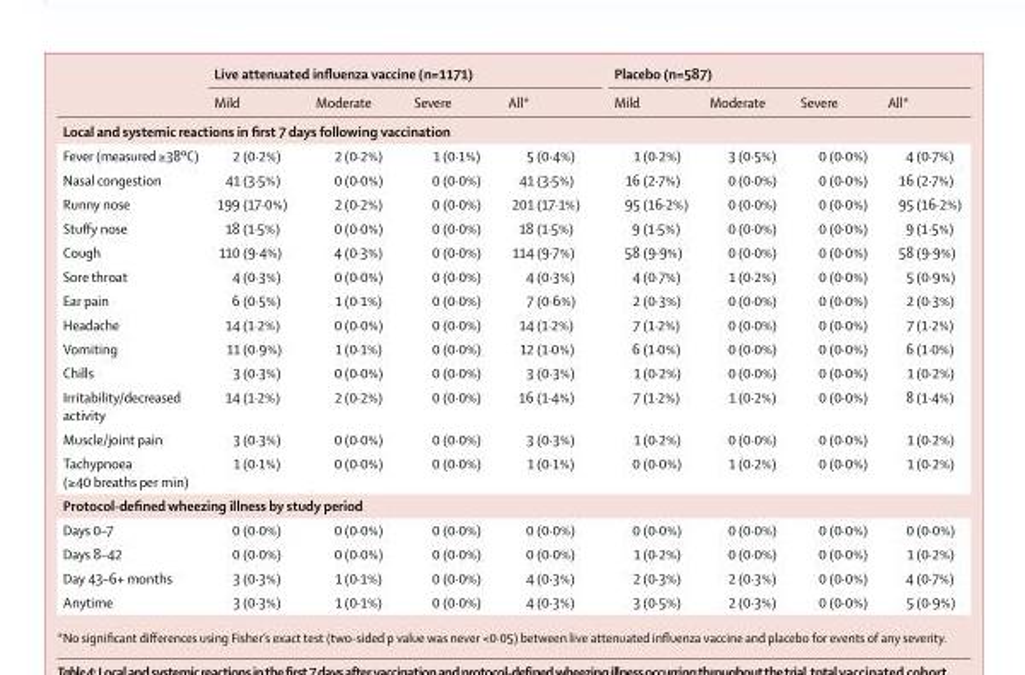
<table><thead><tr><td rowspan="2"></td><td colspan="4">Live attenuated infl uenza vaccine (n=1171)</td><td colspan="4">Placebo (n=587)</td></tr><tr><td>Mild</td><td>Moderate</td><td>Severe</td><td>All*</td><td>Mild</td><td>Moderate</td><td>Severe</td><td>All*</td></tr></thead><tbody><tr><td colspan="9">Local and systemic reactions in fi rst 7 days following vaccination</td></tr><tr><td>Fever (measured ≥38ºC)</td><td>2 (0·2%)</td><td>2 (0·2%)</td><td>1 (0·1%)</td><td>5 (0·4%)</td><td>1 (0·2%)</td><td>3 (0·5%)</td><td>0 (0·0%)</td><td>4 (0·7%)</td></tr><tr><td>Nasal congestion</td><td>41 (3·5%)</td><td>0 (0·0%)</td><td>0 (0·0%)</td><td>41 (3·5%)</td><td>16 (2·7%)</td><td>0 (0·0%)</td><td>0 (0·0%)</td><td>16 (2·7%)</td></tr><tr><td>Runny nose</td><td>199 (17·0%)</td><td>2 (0·2%)</td><td>0 (0·0%)</td><td>201 (17·1%)</td><td>95 (16·2%)</td><td>0 (0·0%)</td><td>0 (0·0%)</td><td>95 (16·2%)</td></tr><tr><td>Stuff y nose</td><td>18 (1·5%)</td><td>0 (0·0%)</td><td>0 (0·0%)</td><td>18 (1·5%)</td><td>9 (1·5%)</td><td>0 (0·0%)</td><td>0 (0·0%)</td><td>9 (1·5%)</td></tr><tr><td>Cough</td><td>110 (9·4%)</td><td>4 (0·3%)</td><td>0 (0·0%)</td><td>114 (9·7%)</td><td>58 (9·9%)</td><td>0 (0·0%)</td><td>0 (0·0%)</td><td>58 (9·9%)</td></tr><tr><td>Sore throat</td><td>4 (0·3%)</td><td>0 (0·0%)</td><td>0 (0·0%)</td><td>4 (0·3%)</td><td>4 (0·7%)</td><td>1 (0·2%)</td><td>0 (0·0%)</td><td>5 (0·9%)</td></tr><tr><td>Ear pain</td><td>6 (0·5%)</td><td>1 (0·1%)</td><td>0 (0·0%)</td><td>7 (0·6%)</td><td>2 (0·3%)</td><td>0 (0·0%)</td><td>0 (0·0%)</td><td>2 (0·3%)</td></tr><tr><td>Headache</td><td>14 (1·2%)</td><td>0 (0·0%)</td><td>0 (0·0%)</td><td>14 (1·2%)</td><td>7 (1·2%)</td><td>0 (0·0%)</td><td>0 (0·0%)</td><td>7 (1·2%)</td></tr><tr><td>Vomiting</td><td>11 (0·9%)</td><td>1 (0·1%)</td><td>0 (0·0%)</td><td>12 (1·0%)</td><td>6 (1·0%)</td><td>0 (0·0%)</td><td>0 (0·0%)</td><td>6 (1·0%)</td></tr><tr><td>Chills</td><td>3 (0·3%)</td><td>0 (0·0%)</td><td>0 (0·0%)</td><td>3 (0·3%)</td><td>1 (0·2%)</td><td>0 (0·0%)</td><td>0 (0·0%)</td><td>1 (0·2%)</td></tr><tr><td>Irritability/decreased activity</td><td>14 (1·2%)</td><td>2 (0·2%)</td><td>0 (0·0%)</td><td>16 (1·4%)</td><td>7 (1·2%)</td><td>1 (0·2%)</td><td>0 (0·0%)</td><td>8 (1·4%)</td></tr><tr><td>Muscle/joint pain</td><td>3 (0·3%)</td><td>0 (0·0%)</td><td>0 (0·0%)</td><td>3 (0·3%)</td><td>1 (0·2%)</td><td>0 (0·0%)</td><td>0 (0·0%)</td><td>1 (0·2%)</td></tr><tr><td>Tachypnoea (≥40 breaths per min)</td><td>1 (0·1%)</td><td>0 (0·0%)</td><td>0 (0·0%)</td><td>1 (0·1%)</td><td>0 (0·0%)</td><td>1 (0·2%)</td><td>0 (0·0%)</td><td>1 (0·2%)</td></tr><tr><td colspan="9">Protocol-defi ned wheezing illness by study period</td></tr><tr><td>Days 0–7</td><td>0 (0·0%)</td><td>0 (0·0%)</td><td>0 (0·0%)</td><td>0 (0·0%)</td><td>0 (0·0%)</td><td>0 (0·0%)</td><td>0 (0·0%)</td><td>0 (0·0%)</td></tr><tr><td>Days 8–42</td><td>0 (0·0%)</td><td>0 (0·0%)</td><td>0 (0·0%)</td><td>0 (0·0%)</td><td>1 (0·2%)</td><td>0 (0·0%)</td><td>0 (0·0%)</td><td>1 (0·2%)</td></tr><tr><td>Day 43–6+ months</td><td>3 (0·3%)</td><td>1 (0·1%)</td><td>0 (0·0%)</td><td>4 (0·3%)</td><td>2 (0·3%)</td><td>2 (0·3%)</td><td>0 (0·0%)</td><td>4 (0·7%)</td></tr><tr><td>Anytime</td><td>3 (0·3%)</td><td>1 (0·1%)</td><td>0 (0·0%)</td><td>4 (0·3%)</td><td>3 (0·5%)</td><td>2 (0·3%)</td><td>0 (0·0%)</td><td>5 (0·9%)</td></tr></tbody></table>